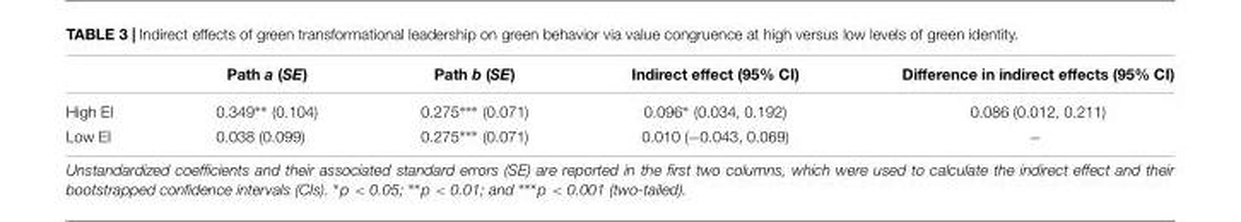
<table><thead><tr><td></td><td>Path a (SE)</td><td>Path b (SE)</td><td>Indirect effect (95% CI)</td><td>Difference in indirect effects (95% CI)</td></tr></thead><tbody><tr><td>High EI</td><td>0.349∗∗ (0.104)</td><td>0.275∗∗∗ (0.071)</td><td>0.096∗ (0.034, 0.192)</td><td>0.086 (0.012, 0.211)</td></tr><tr><td>Low EI</td><td>0.038 (0.099)</td><td>0.275∗∗∗ (0.071)</td><td>0.010 (−0.043, 0.069)</td><td>−</td></tr></tbody></table>